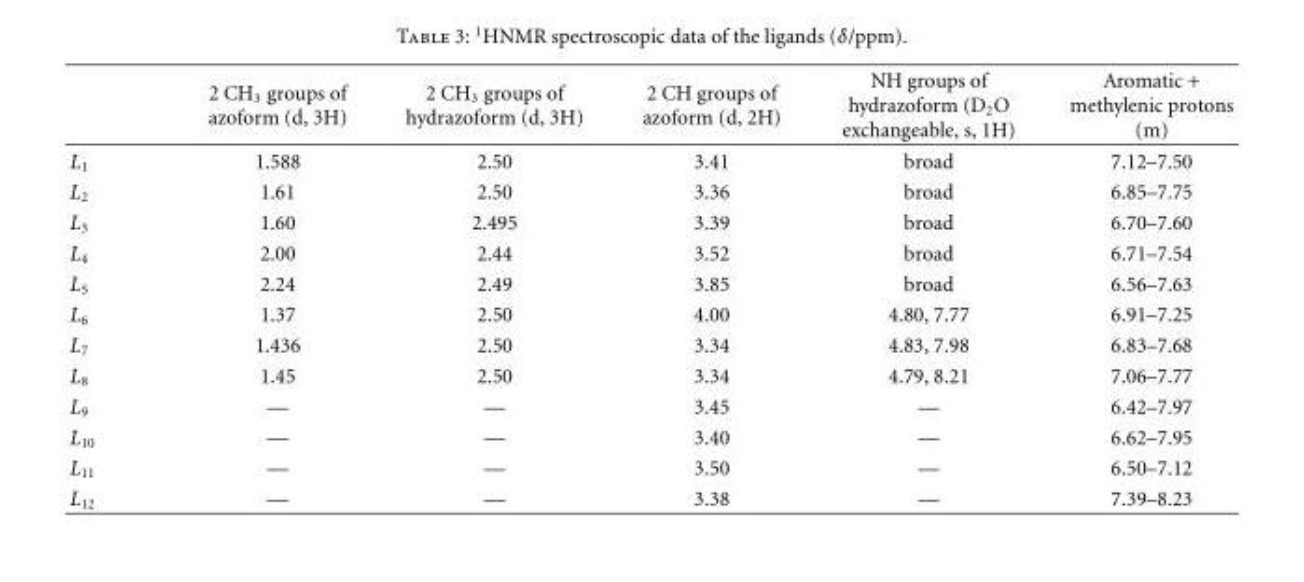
<table><thead><tr><td></td><td>2 CH<sub>3</sub> groups of azoform (d, 3H)</td><td>2 CH<sub>3</sub> groups of hydrazoform (d, 3H)</td><td>2 CH groups of azoform (d, 2H)</td><td>NH groups of hydrazoform (D<sub>2</sub>O exchangeable, s, 1H)</td><td>Aromatic + methylenic protons (m)</td></tr></thead><tbody><tr><td>L<sub>1</sub></td><td>1.588</td><td>2.50</td><td>3.41</td><td>broad</td><td>7.12–7.50</td></tr><tr><td>L<sub>2</sub></td><td>1.61</td><td>2.50</td><td>3.36</td><td>broad</td><td>6.85–7.75</td></tr><tr><td>L<sub>3</sub></td><td>1.60</td><td>2.495</td><td>3.39</td><td>broad</td><td>6.70–7.60</td></tr><tr><td>L<sub>4</sub></td><td>2.00</td><td>2.44</td><td>3.52</td><td>broad</td><td>6.71–7.54</td></tr><tr><td>L<sub>5</sub></td><td>2.24</td><td>2.49</td><td>3.85</td><td>broad</td><td>6.56–7.63</td></tr><tr><td>L<sub>6</sub></td><td>1.37</td><td>2.50</td><td>4.00</td><td>4.80, 7.77</td><td>6.91–7.25</td></tr><tr><td>L<sub>7</sub></td><td>1.436</td><td>2.50</td><td>3.34</td><td>4.83, 7.98</td><td>6.83–7.68</td></tr><tr><td>L<sub>8</sub></td><td>1.45</td><td>2.50</td><td>3.34</td><td>4.79, 8.21</td><td>7.06–7.77</td></tr><tr><td>L<sub>9</sub></td><td>—</td><td>—</td><td>3.45</td><td>—</td><td>6.42–7.97</td></tr><tr><td>L<sub>10</sub></td><td>—</td><td>—</td><td>3.40</td><td>—</td><td>6.62–7.95</td></tr><tr><td>L<sub>11</sub></td><td>—</td><td>—</td><td>3.50</td><td>—</td><td>6.50–7.12</td></tr><tr><td>L<sub>12</sub></td><td>—</td><td>—</td><td>3.38</td><td>—</td><td>7.39–8.23</td></tr></tbody></table>